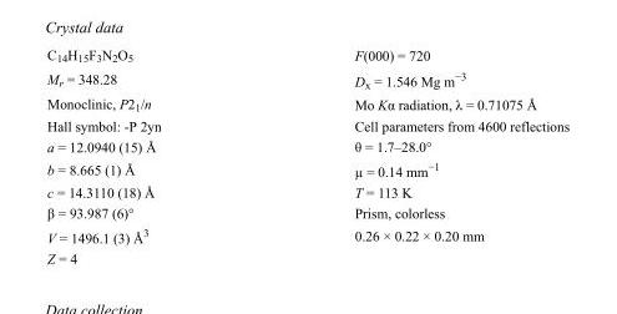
<table><tbody><tr><td>C<sub>14</sub>H<sub>15</sub>F<sub>3</sub>N<sub>2</sub>O<sub>5</sub></td><td>F(000) = 720</td></tr><tr><td>M<sub>r</sub> = 348.28</td><td>D<sub>x</sub> = 1.546 Mg m<sup>−3</sup></td></tr><tr><td>Monoclinic, P2<sub>1</sub>/n</td><td>Mo Kα radiation, λ = 0.71075 Å</td></tr><tr><td>Hall symbol: -P 2yn</td><td>Cell parameters from 4600 reflections</td></tr><tr><td>a = 12.0940 (15) Å</td><td>θ = 1.7–28.0°</td></tr><tr><td>b = 8.665 (1) Å</td><td>µ = 0.14 mm<sup>−1</sup></td></tr><tr><td>c = 14.3110 (18) Å</td><td>T = 113 K</td></tr><tr><td>β = 93.987 (6)°</td><td>Prism, colorless</td></tr><tr><td>V = 1496.1 (3) Å<sup>3</sup></td><td>0.26 × 0.22 × 0.20 mm</td></tr><tr><td>Z = 4</td><td></td></tr></tbody></table>